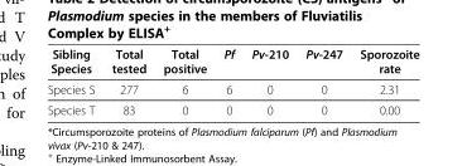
<table><thead><tr><td>Sibling Species</td><td>Total tested</td><td>Total positive</td><td>Pf</td><td>Pv-210</td><td>Pv-247</td><td>Sporozoite rate</td></tr></thead><tbody><tr><td>Species S</td><td>277</td><td>6</td><td>6</td><td>0</td><td>0</td><td>2.31</td></tr><tr><td>Species T</td><td>83</td><td>0</td><td>0</td><td>0</td><td>0</td><td>0.00</td></tr></tbody></table>